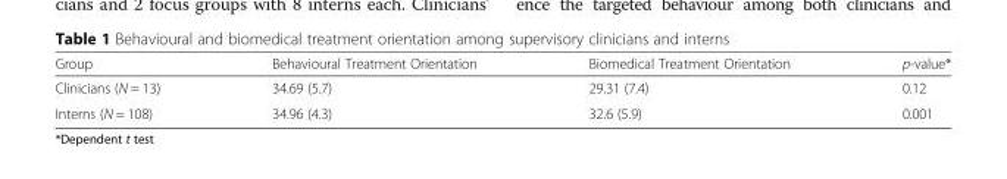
<table><thead><tr><td>Group</td><td>Behavioural Treatment Orientation</td><td>Biomedical Treatment Orientation</td><td>p-value*</td></tr></thead><tbody><tr><td>Clinicians (N = 13)</td><td>34.69 (5.7)</td><td>29.31 (7.4)</td><td>0.12</td></tr><tr><td>Interns (N = 108)</td><td>34.96 (4.3)</td><td>32.6 (5.9)</td><td>0.001</td></tr></tbody></table>